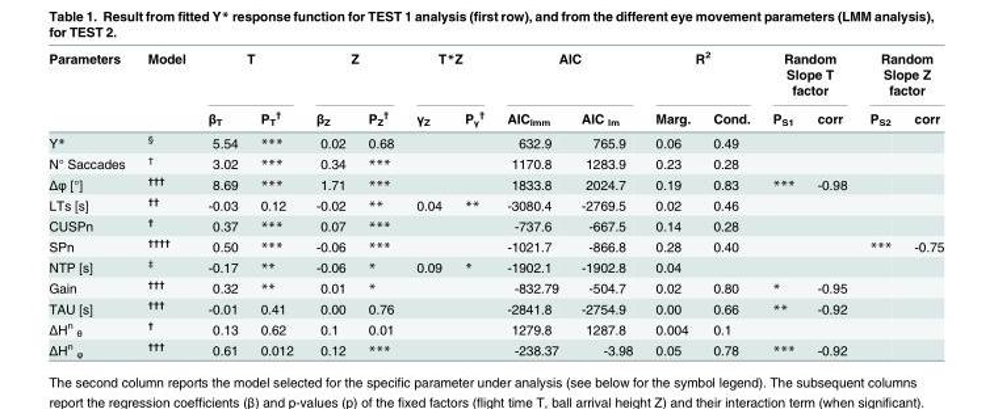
<table><thead><tr><td rowspan="2">Parameters</td><td rowspan="2">Model</td><td colspan="2">T</td><td colspan="2">Z</td><td colspan="2">T*Z</td><td colspan="2">AIC</td><td colspan="2">R<sup>2</sup></td><td colspan="2">Random Slope T factor</td><td colspan="2">Random Slope Z factor</td></tr><tr><td>β<sub>T</sub></td><td>P<sub>T</sub> <sup>†</sup></td><td>β<sub>Z</sub></td><td>P<sub>Z</sub> <sup>†</sup></td><td>γ<sub>Z</sub></td><td>P<sub>γ</sub> <sup>†</sup></td><td>AIC<sub>lmm</sub></td><td>AIC <sub>lm</sub></td><td>Marg.</td><td>Cond.</td><td>P<sub>S1</sub></td><td>corr</td><td>P<sub>S2</sub></td><td>corr</td></tr></thead><tbody><tr><td>Y*</td><td><sup>§</sup></td><td>5.54</td><td>***</td><td>0.02</td><td>0.68</td><td></td><td></td><td>632.9</td><td>765.9</td><td>0.06</td><td>0.49</td><td></td><td></td><td></td><td></td></tr><tr><td>N° Saccades</td><td><sup>†</sup></td><td>3.02</td><td>***</td><td>0.34</td><td>***</td><td></td><td></td><td>1170.8</td><td>1283.9</td><td>0.23</td><td>0.28</td><td></td><td></td><td></td><td></td></tr><tr><td>Δφ [°]</td><td><sup>†††</sup></td><td>8.69</td><td>***</td><td>1.71</td><td>***</td><td></td><td></td><td>1833.8</td><td>2024.7</td><td>0.19</td><td>0.83</td><td>***</td><td>-0.98</td><td></td><td></td></tr><tr><td>LTs [s]</td><td><sup>††</sup></td><td>-0.03</td><td>0.12</td><td>-0.02</td><td>**</td><td>0.04</td><td>**</td><td>-3080.4</td><td>-2769.5</td><td>0.02</td><td>0.46</td><td></td><td></td><td></td><td></td></tr><tr><td>CUSPn</td><td><sup>†</sup></td><td>0.37</td><td>***</td><td>0.07</td><td>***</td><td></td><td></td><td>-737.6</td><td>-667.5</td><td>0.14</td><td>0.28</td><td></td><td></td><td></td><td></td></tr><tr><td>SPn</td><td><sup>††††</sup></td><td>0.50</td><td>***</td><td>-0.06</td><td>***</td><td></td><td></td><td>-1021.7</td><td>-866.8</td><td>0.28</td><td>0.40</td><td></td><td></td><td>***</td><td>-0.75</td></tr><tr><td>NTP [s]</td><td><sup>‡</sup></td><td>-0.17</td><td>**</td><td>-0.06</td><td>*</td><td>0.09</td><td>*</td><td>-1902.1</td><td>-1902.8</td><td>0.04</td><td></td><td></td><td></td><td></td><td></td></tr><tr><td>Gain</td><td><sup>†††</sup></td><td>0.32</td><td>**</td><td>0.01</td><td>*</td><td></td><td></td><td>-832.79</td><td>-504.7</td><td>0.02</td><td>0.80</td><td>*</td><td>-0.95</td><td></td><td></td></tr><tr><td>TAU [s]</td><td><sup>†††</sup></td><td>-0.01</td><td>0.41</td><td>0.00</td><td>0.76</td><td></td><td></td><td>-2841.8</td><td>-2754.9</td><td>0.00</td><td>0.66</td><td>**</td><td>-0.92</td><td></td><td></td></tr><tr><td>ΔH<sup>n</sup> <sub>θ</sub></td><td><sup>†</sup></td><td>0.13</td><td>0.62</td><td>0.1</td><td>0.01</td><td></td><td></td><td>1279.8</td><td>1287.8</td><td>0.004</td><td>0.1</td><td></td><td></td><td></td><td></td></tr><tr><td>ΔH<sup>n</sup> <sub>φ</sub></td><td><sup>†††</sup></td><td>0.61</td><td>0.012</td><td>0.12</td><td>***</td><td></td><td></td><td>-238.37</td><td>-3.98</td><td>0.05</td><td>0.78</td><td>***</td><td>-0.92</td><td></td><td></td></tr></tbody></table>